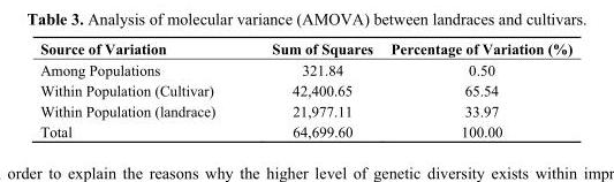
<table><thead><tr><td>Source of Variation</td><td>Sum of Squares</td><td>Percentage of Variation (%)</td></tr></thead><tbody><tr><td>Among Populations</td><td>321.84</td><td>0.50</td></tr><tr><td>Within Population (Cultivar)</td><td>42,400.65</td><td>65.54</td></tr><tr><td>Within Population (landrace)</td><td>21,977.11</td><td>33.97</td></tr><tr><td>Total</td><td>64,699.60</td><td>100.00</td></tr></tbody></table>